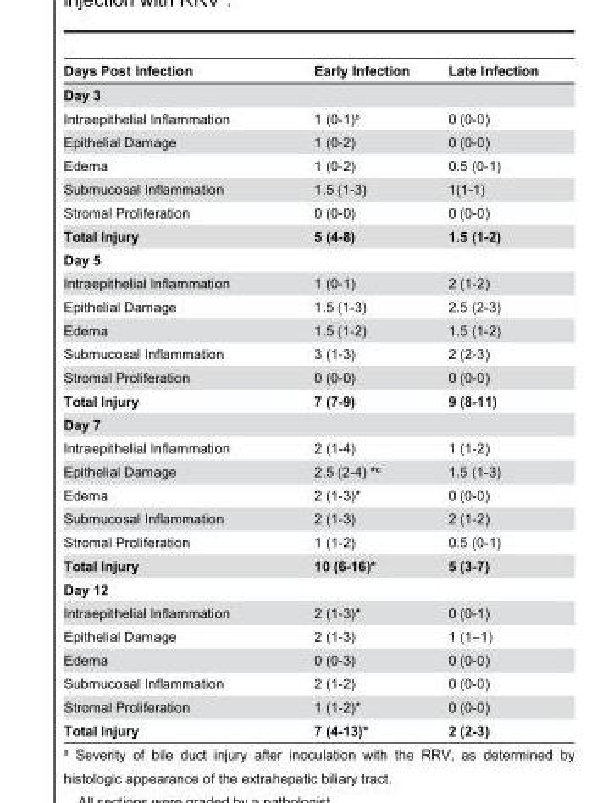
<table><thead><tr><td>Days Post Infection</td><td>Early Infection</td><td>Late Infection</td></tr></thead><tbody><tr><td colspan="3">Day 3</td></tr><tr><td>Intraepithelial Inflammation</td><td>1 (0-1)<sup>b</sup></td><td>0 (0-0)</td></tr><tr><td>Epithelial Damage</td><td>1 (0-2)</td><td>0 (0-0)</td></tr><tr><td>Edema</td><td>1 (0-2)</td><td>0.5 (0-1)</td></tr><tr><td>Submucosal Inflammation</td><td>1.5 (1-3)</td><td>1(1-1)</td></tr><tr><td>Stromal Proliferation</td><td>0 (0-0)</td><td>0 (0-0)</td></tr><tr><td>Total Injury</td><td>5 (4-8)</td><td>1.5 (1-2)</td></tr><tr><td colspan="3">Day 5</td></tr><tr><td>Intraepithelial Inflammation</td><td>1 (0-1)</td><td>2 (1-2)</td></tr><tr><td>Epithelial Damage</td><td>1.5 (1-3)</td><td>2.5 (2-3)</td></tr><tr><td>Edema</td><td>1.5 (1-2)</td><td>1.5 (1-2)</td></tr><tr><td>Submucosal Inflammation</td><td>3 (1-3)</td><td>2 (2-3)</td></tr><tr><td>Stromal Proliferation</td><td>0 (0-0)</td><td>0 (0-0)</td></tr><tr><td>Total Injury</td><td>7 (7-9)</td><td>9 (8-11)</td></tr><tr><td colspan="3">Day 7</td></tr><tr><td>Intraepithelial Inflammation</td><td>2 (1-4)</td><td>1 (1-2)</td></tr><tr><td>Epithelial Damage</td><td>2.5 (2-4) *<sup>c</sup></td><td>1.5 (1-3)</td></tr><tr><td>Edema</td><td>2 (1-3)*</td><td>0 (0-0)</td></tr><tr><td>Submucosal Inflammation</td><td>2 (1-3)</td><td>2 (1-2)</td></tr><tr><td>Stromal Proliferation</td><td>1 (1-2)</td><td>0.5 (0-1)</td></tr><tr><td>Total Injury</td><td>10 (6-16)*</td><td>5 (3-7)</td></tr><tr><td colspan="3">Day 12</td></tr><tr><td>Intraepithelial Inflammation</td><td>2 (1-3)*</td><td>0 (0-1)</td></tr><tr><td>Epithelial Damage</td><td>2 (1-3)</td><td>1 (1–1)</td></tr><tr><td>Edema</td><td>0 (0-3)</td><td>0 (0-0)</td></tr><tr><td>Submucosal Inflammation</td><td>2 (1-2)</td><td>0 (0-0)</td></tr><tr><td>Stromal Proliferation</td><td>1 (1-2)*</td><td>0 (0-0)</td></tr><tr><td>Total Injury</td><td>7 (4-13)*</td><td>2 (2-3)</td></tr></tbody></table>